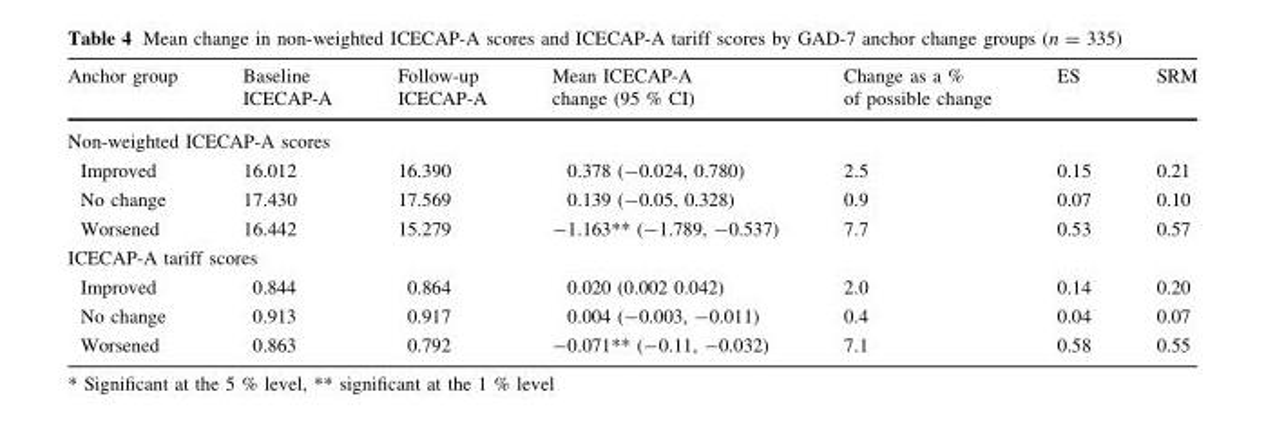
<table><thead><tr><td>Anchor group</td><td>Baseline ICECAP-A</td><td>Follow-up ICECAP-A</td><td>Mean ICECAP-A change (95 % CI)</td><td>Change as a % of possible change</td><td>ES</td><td>SRM</td></tr></thead><tbody><tr><td colspan="7">Non-weighted ICECAP-A scores</td></tr><tr><td>Improved</td><td>16.012</td><td>16.390</td><td>0.378 (-0.024, 0.780)</td><td>2.5</td><td>0.15</td><td>0.21</td></tr><tr><td>No change</td><td>17.430</td><td>17.569</td><td>0.139 (-0.05, 0.328)</td><td>0.9</td><td>0.07</td><td>0.10</td></tr><tr><td>Worsened</td><td>16.442</td><td>15.279</td><td>-1.163** (-1.789, -0.537)</td><td>7.7</td><td>0.53</td><td>0.57</td></tr><tr><td colspan="7">ICECAP-A tariff scores</td></tr><tr><td>Improved</td><td>0.844</td><td>0.864</td><td>0.020 (0.002 0.042)</td><td>2.0</td><td>0.14</td><td>0.20</td></tr><tr><td>No change</td><td>0.913</td><td>0.917</td><td>0.004 (-0.003, -0.011)</td><td>0.4</td><td>0.04</td><td>0.07</td></tr><tr><td>Worsened</td><td>0.863</td><td>0.792</td><td>-0.071** (-0.11, -0.032)</td><td>7.1</td><td>0.58</td><td>0.55</td></tr></tbody></table>